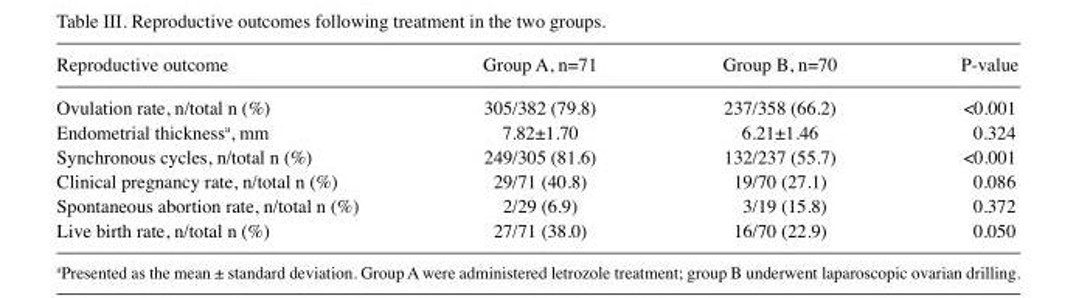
<table><thead><tr><td>Reproductive outcome</td><td>Group A, n=71</td><td>Group B, n=70</td><td>P-value</td></tr></thead><tbody><tr><td>Ovulation rate, n/total n (%)</td><td>305/382 (79.8)</td><td>237/358 (66.2)</td><td>&lt;0.001</td></tr><tr><td>Endometrial thickness<sup>a</sup>, mm</td><td>7.82±1.70</td><td>6.21±1.46</td><td>0.324</td></tr><tr><td>Synchronous cycles, n/total n (%)</td><td>249/305 (81.6)</td><td>132/237 (55.7)</td><td>&lt;0.001</td></tr><tr><td>Clinical pregnancy rate, n/total n (%)</td><td>29/71 (40.8)</td><td>19/70 (27.1)</td><td>0.086</td></tr><tr><td>Spontaneous abortion rate, n/total n (%)</td><td>2/29 (6.9)</td><td>3/19 (15.8)</td><td>0.372</td></tr><tr><td>Live birth rate, n/total n (%)</td><td>27/71 (38.0)</td><td>16/70 (22.9)</td><td>0.050</td></tr></tbody></table>